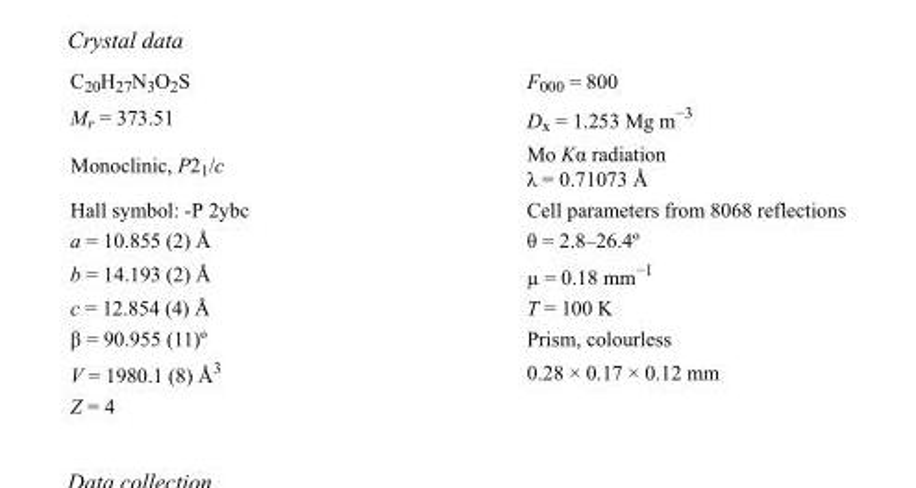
<table><tbody><tr><td>C<sub>20</sub>H<sub>27</sub>N<sub>3</sub>O<sub>2</sub>S</td><td>F000 = 800</td></tr><tr><td>M<sub>r</sub> = 373.51</td><td>D<sub>x</sub> = 1.253 Mg m<sup>−3</sup></td></tr><tr><td>Monoclinic, P2<sub>1</sub>/c</td><td>Mo Kα radiation λ = 0.71073 Å</td></tr><tr><td>Hall symbol: -P 2ybc</td><td>Cell parameters from 8068 reflections</td></tr><tr><td>a = 10.855 (2) Å</td><td>θ = 2.8–26.4º</td></tr><tr><td>b = 14.193 (2) Å</td><td>µ = 0.18 mm<sup>−1</sup></td></tr><tr><td>c = 12.854 (4) Å</td><td>T = 100 K</td></tr><tr><td>β = 90.955 (11)º</td><td>Prism, colourless</td></tr><tr><td>V = 1980.1 (8) Å<sup>3</sup></td><td>0.28 × 0.17 × 0.12 mm</td></tr><tr><td>Z = 4</td><td></td></tr></tbody></table>